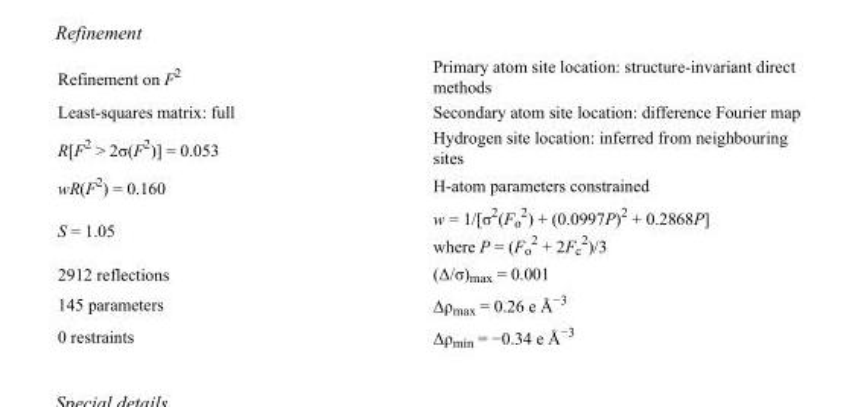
<table><tbody><tr><td>Refinement on F<sup>2</sup></td><td>Primary atom site location: structure-invariant direct methods</td></tr><tr><td>Least-squares matrix: full</td><td>Secondary atom site location: difference Fourier map</td></tr><tr><td>R[F<sup>2</sup> &gt; 2σ(F<sup>2</sup>)] = 0.053</td><td>Hydrogen site location: inferred from neighbouring sites</td></tr><tr><td>wR(F<sup>2</sup>) = 0.160</td><td>H-atom parameters constrained</td></tr><tr><td>S = 1.05</td><td>w = 1/[σ<sup>2</sup>(F<sub>o</sub> <sup>2</sup>) + (0.0997P)<sup>2</sup> + 0.2868P] where P = (F<sub>o</sub> <sup>2</sup> + 2F<sub>c</sub> <sup>2</sup>)/3</td></tr><tr><td>2912 reflections</td><td>(Δ/σ)<sub>max</sub> = 0.001</td></tr><tr><td>145 parameters</td><td>Δρ<sub>max</sub> = 0.26 e Å<sup>−3</sup></td></tr><tr><td>0 restraints</td><td>Δρ<sub>min</sub> = −0.34 e Å<sup>−3</sup></td></tr></tbody></table>